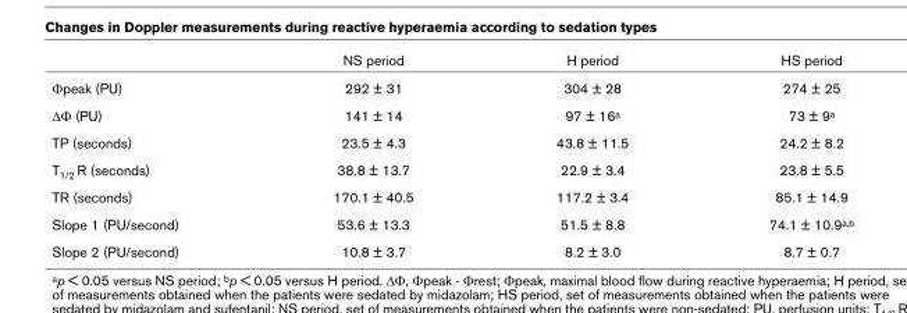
<table><thead><tr><td></td><td>NS period</td><td>H period</td><td>HS period</td></tr></thead><tbody><tr><td>Φpeak (PU)</td><td>292 ± 31</td><td>304 ± 28</td><td>274 ± 25</td></tr><tr><td>ΔΦ (PU)</td><td>141 ± 14</td><td>97 ± 16a</td><td>73 ± 9a</td></tr><tr><td>TP (seconds)</td><td>23.5 ± 4.3</td><td>43.8 ± 11.5</td><td>24.2 ± 8.2</td></tr><tr><td>T1/2 R (seconds)</td><td>38.8 ± 13.7</td><td>22.9 ± 3.4</td><td>23.8 ± 5.5</td></tr><tr><td>TR (seconds)</td><td>170.1 ± 40.5</td><td>117.2 ± 3.4</td><td>85.1 ± 14.9</td></tr><tr><td>Slope 1 (PU/second)</td><td>53.6 ± 13.3</td><td>51.5 ± 8.8</td><td>74.1 ± 10.9a,b</td></tr><tr><td>Slope 2 (PU/second)</td><td>10.8 ± 3.7</td><td>8.2 ± 3.0</td><td>8.7 ± 0.7</td></tr></tbody></table>